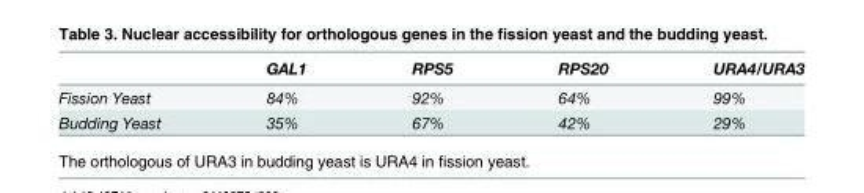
<table><thead><tr><td></td><td>GAL1</td><td>RPS5</td><td>RPS20</td><td>URA4/URA3</td></tr></thead><tbody><tr><td>Fission Yeast</td><td>84%</td><td>92%</td><td>64%</td><td>99%</td></tr><tr><td>Budding Yeast</td><td>35%</td><td>67%</td><td>42%</td><td>29%</td></tr></tbody></table>